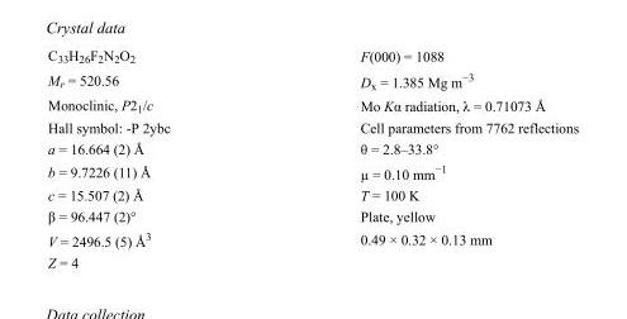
<table><tbody><tr><td>C<sub>33</sub>H<sub>26</sub>F<sub>2</sub>N<sub>2</sub>O<sub>2</sub></td><td>F(000) = 1088</td></tr><tr><td>M<sub>r</sub> = 520.56</td><td>D<sub>x</sub> = 1.385 Mg m<sup>−3</sup></td></tr><tr><td>Monoclinic, P2<sub>1</sub>/c</td><td>Mo Kα radiation, λ = 0.71073 Å</td></tr><tr><td>Hall symbol: -P 2ybc</td><td>Cell parameters from 7762 reflections</td></tr><tr><td>a = 16.664 (2) Å</td><td>θ = 2.8–33.8°</td></tr><tr><td>b = 9.7226 (11) Å</td><td>µ = 0.10 mm<sup>−1</sup></td></tr><tr><td>c = 15.507 (2) Å</td><td>T = 100 K</td></tr><tr><td>β = 96.447 (2)°</td><td>Plate, yellow</td></tr><tr><td>V = 2496.5 (5) Å<sup>3</sup></td><td>0.49 × 0.32 × 0.13 mm</td></tr><tr><td>Z = 4</td><td></td></tr></tbody></table>